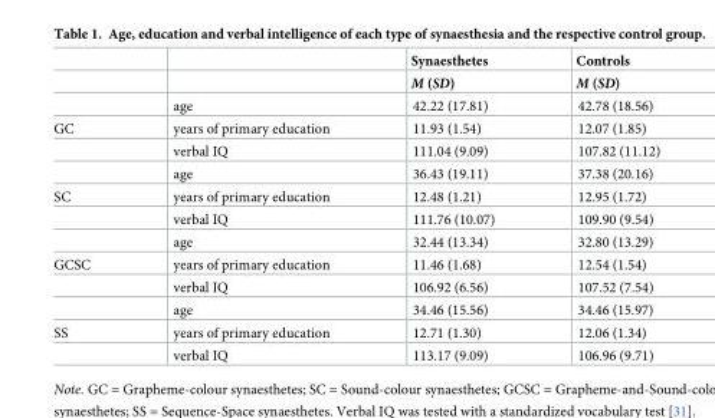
<table><thead><tr><td rowspan="2"></td><td rowspan="2"></td><td rowspan="2">Synaesthetes M (SD)</td><td rowspan="2">Controls M (SD)</td></tr><tr></tr></thead><tbody><tr><td></td><td>age</td><td>42.22 (17.81)</td><td>42.78 (18.56)</td></tr><tr><td rowspan="3">GC</td><td>years of primary education</td><td>11.93 (1.54)</td><td>12.07 (1.85)</td></tr><tr><td>verbal IQ</td><td>111.04 (9.09)</td><td>107.82 (11.12)</td></tr><tr><td>age</td><td>36.43 (19.11)</td><td>37.38 (20.16)</td></tr><tr><td rowspan="3">SC</td><td>years of primary education</td><td>12.48 (1.21)</td><td>12.95 (1.72)</td></tr><tr><td>verbal IQ</td><td>111.76 (10.07)</td><td>109.90 (9.54)</td></tr><tr><td>age</td><td>32.44 (13.34)</td><td>32.80 (13.29)</td></tr><tr><td rowspan="3">GCSC</td><td>years of primary education</td><td>11.46 (1.68)</td><td>12.54 (1.54)</td></tr><tr><td>verbal IQ</td><td>106.92 (6.56)</td><td>107.52 (7.54)</td></tr><tr><td>age</td><td>34.46 (15.56)</td><td>34.46 (15.97)</td></tr><tr><td rowspan="2">SS</td><td>years of primary education</td><td>12.71 (1.30)</td><td>12.06 (1.34)</td></tr><tr><td>verbal IQ</td><td>113.17 (9.09)</td><td>106.96 (9.71)</td></tr></tbody></table>